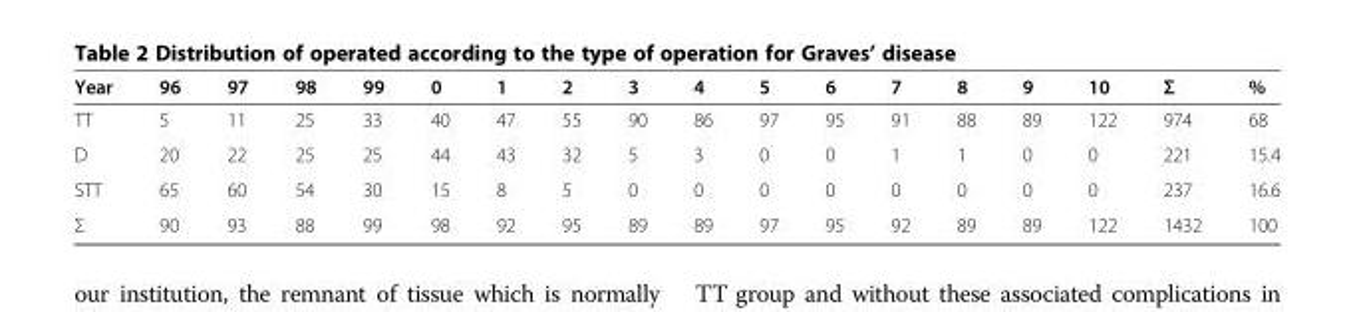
<table><thead><tr><td>Year</td><td>96</td><td>97</td><td>98</td><td>99</td><td>0</td><td>1</td><td>2</td><td>3</td><td>4</td><td>5</td><td>6</td><td>7</td><td>8</td><td>9</td><td>10</td><td>Σ</td><td>%</td></tr></thead><tbody><tr><td>TT</td><td>5</td><td>11</td><td>25</td><td>33</td><td>40</td><td>47</td><td>55</td><td>90</td><td>86</td><td>97</td><td>95</td><td>91</td><td>88</td><td>89</td><td>122</td><td>974</td><td>68</td></tr><tr><td>D</td><td>20</td><td>22</td><td>25</td><td>25</td><td>44</td><td>43</td><td>32</td><td>5</td><td>3</td><td>0</td><td>0</td><td>1</td><td>1</td><td>0</td><td>0</td><td>221</td><td>15.4</td></tr><tr><td>STT</td><td>65</td><td>60</td><td>54</td><td>30</td><td>15</td><td>8</td><td>5</td><td>0</td><td>0</td><td>0</td><td>0</td><td>0</td><td>0</td><td>0</td><td>0</td><td>237</td><td>16.6</td></tr><tr><td>Σ</td><td>90</td><td>93</td><td>88</td><td>99</td><td>98</td><td>92</td><td>95</td><td>89</td><td>89</td><td>97</td><td>95</td><td>92</td><td>89</td><td>89</td><td>122</td><td>1432</td><td>100</td></tr></tbody></table>